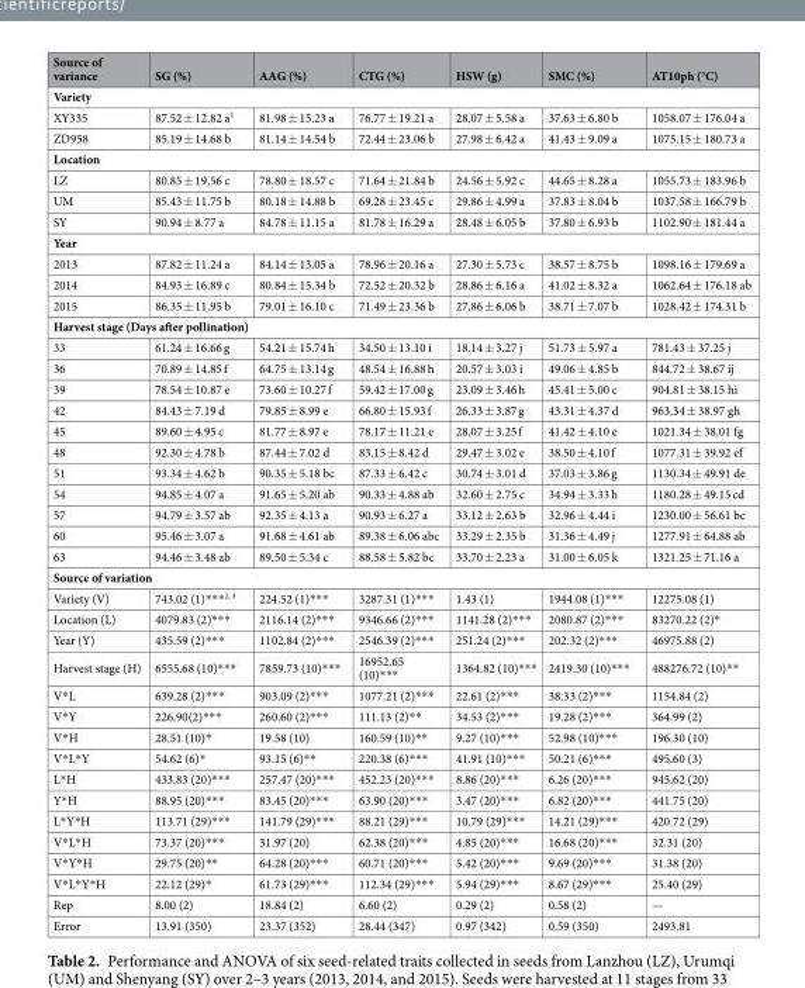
<table><thead><tr><td>Source of variance</td><td>SG (%)</td><td>AAG (%)</td><td>CTG (%)</td><td>HSW (g)</td><td>SMC (%)</td><td>AT10ph (°C)</td></tr></thead><tbody><tr><td colspan="7">Variety</td></tr><tr><td>XY335</td><td>87.52 ± 12.82 a<sup>1</sup></td><td>81.98 ± 15.23 a</td><td>76.77 ± 19.21 a</td><td>28.07 ± 5.58 a</td><td>37.63 ± 6.80 b</td><td>1058.07 ± 176.04 a</td></tr><tr><td>ZD958</td><td>85.19 ± 14.68 b</td><td>81.14 ± 14.54 b</td><td>72.44 ± 23.06 b</td><td>27.98 ± 6.42 a</td><td>41.43 ± 9.09 a</td><td>1075.15 ± 180.73 a</td></tr><tr><td colspan="7">Location</td></tr><tr><td>LZ</td><td>80.85 ± 19.56 c</td><td>78.80 ± 18.57 c</td><td>71.64 ± 21.84 b</td><td>24.56 ± 5.92 c</td><td>44.65 ± 8.28 a</td><td>1055.73 ± 183.96 b</td></tr><tr><td>UM</td><td>85.43 ± 11.75 b</td><td>80.18 ± 14.88 b</td><td>69.28 ± 23.45 c</td><td>29.86 ± 4.99 a</td><td>37.83 ± 8.04 b</td><td>1037.58 ± 166.79 b</td></tr><tr><td>SY</td><td>90.94 ± 8.77 a</td><td>84.78 ± 11.15 a</td><td>81.78 ± 16.29 a</td><td>28.48 ± 6.05 b</td><td>37.80 ± 6.93 b</td><td>1102.90 ± 181.44 a</td></tr><tr><td colspan="7">Year</td></tr><tr><td>2013</td><td>87.82 ± 11.24 a</td><td>84.14 ± 13.05 a</td><td>78.96 ± 20.16 a</td><td>27.30 ± 5.73 c</td><td>38.57 ± 8.75 b</td><td>1098.16 ± 179.69 a</td></tr><tr><td>2014</td><td>84.93 ± 16.89 c</td><td>80.84 ± 15.34 b</td><td>72.52 ± 20.32 b</td><td>28.86 ± 6.16 a</td><td>41.02 ± 8.32 a</td><td>1062.64 ± 176.18 ab</td></tr><tr><td>2015</td><td>86.35 ± 11.95 b</td><td>79.01 ± 16.10 c</td><td>71.49 ± 23.36 b</td><td>27.86 ± 6.06 b</td><td>38.71 ± 7.07 b</td><td>1028.42 ± 174.31 b</td></tr><tr><td colspan="7">Harvest stage (Days after pollination)</td></tr><tr><td>33</td><td>61.24 ± 16.66 g</td><td>54.21 ± 15.74 h</td><td>34.50 ± 13.10 i</td><td>18.14 ± 3.27 j</td><td>51.73 ± 5.97 a</td><td>781.43 ± 37.25 j</td></tr><tr><td>36</td><td>70.89 ± 14.85 f</td><td>64.75 ± 13.14 g</td><td>48.54 ± 16.88 h</td><td>20.57 ± 3.03 i</td><td>49.06 ± 4.85 b</td><td>844.72 ± 38.67 ij</td></tr><tr><td>39</td><td>78.54 ± 10.87 e</td><td>73.60 ± 10.27 f</td><td>59.42 ± 17.00 g</td><td>23.09 ± 3.46 h</td><td>45.41 ± 5.00 c</td><td>904.81 ± 38.15 hi</td></tr><tr><td>42</td><td>84.43 ± 7.19 d</td><td>79.85 ± 8.99 e</td><td>66.80 ± 15.93 f</td><td>26.33 ± 3.87 g</td><td>43.31 ± 4.37 d</td><td>963.34 ± 38.97 gh</td></tr><tr><td>45</td><td>89.60 ± 4.95 c</td><td>81.77 ± 8.97 e</td><td>78.17 ± 11.21 e</td><td>28.07 ± 3.25 f</td><td>41.42 ± 4.10 e</td><td>1021.34 ± 38.01 fg</td></tr><tr><td>48</td><td>92.30 ± 4.78 b</td><td>87.44 ± 7.02 d</td><td>83.15 ± 8.42 d</td><td>29.47 ± 3.02 e</td><td>38.50 ± 4.10 f</td><td>1077.31 ± 39.92 ef</td></tr><tr><td>51</td><td>93.34 ± 4.62 b</td><td>90.35 ± 5.18 bc</td><td>87.33 ± 6.42 c</td><td>30.74 ± 3.01 d</td><td>37.03 ± 3.86 g</td><td>1130.34 ± 49.91 de</td></tr><tr><td>54</td><td>94.85 ± 4.07 a</td><td>91.65 ± 5.20 ab</td><td>90.33 ± 4.88 ab</td><td>32.60 ± 2.75 c</td><td>34.94 ± 3.33 h</td><td>1180.28 ± 49.15 cd</td></tr><tr><td>57</td><td>94.79 ± 3.57 ab</td><td>92.35 ± 4.13 a</td><td>90.93 ± 6.27 a</td><td>33.12 ± 2.63 b</td><td>32.96 ± 4.44 i</td><td>1230.00 ± 56.61 bc</td></tr><tr><td>60</td><td>95.46 ± 3.07 a</td><td>91.68 ± 4.61 ab</td><td>89.38 ± 6.06 abc</td><td>33.29 ± 2.35 b</td><td>31.36 ± 4.49 j</td><td>1277.91 ± 64.88 ab</td></tr><tr><td>63</td><td>94.46 ± 3.48 ab</td><td>89.50 ± 5.34 c</td><td>88.58 ± 5.82 bc</td><td>33.70 ± 2.23 a</td><td>31.00 ± 6.05 k</td><td>1321.25 ± 71.16 a</td></tr><tr><td colspan="7">Source of variation</td></tr><tr><td>Variety (V)</td><td>743.02 (1)***<sup>2, 3</sup></td><td>224.52 (1)***</td><td>3287.31 (1)***</td><td>1.43 (1)</td><td>1944.08 (1)***</td><td>12275.08 (1)</td></tr><tr><td>Location (L)</td><td>4079.83 (2)***</td><td>2116.14 (2)***</td><td>9346.66 (2)***</td><td>1141.28 (2)***</td><td>2080.87 (2)***</td><td>83270.22 (2)*</td></tr><tr><td>Year (Y)</td><td>435.59 (2)***</td><td>1102.84 (2)***</td><td>2546.39 (2)***</td><td>251.24 (2)***</td><td>202.32 (2)***</td><td>46975.88 (2)</td></tr><tr><td>Harvest stage (H)</td><td>6555.68 (10)***</td><td>7859.73 (10)***</td><td>16952.65 (10)***</td><td>1364.82 (10)***</td><td>2419.30 (10)***</td><td>488276.72 (10)**</td></tr><tr><td>V*L</td><td>639.28 (2)***</td><td>903.09 (2)***</td><td>1077.21 (2)***</td><td>22.61 (2)***</td><td>38.33 (2)***</td><td>1154.84 (2)</td></tr><tr><td>V*Y</td><td>226.90(2)***</td><td>260.60 (2)***</td><td>111.13 (2)**</td><td>34.53 (2)***</td><td>19.28 (2)***</td><td>364.99 (2)</td></tr><tr><td>V*H</td><td>28.51 (10)*</td><td>19.58 (10)</td><td>160.59 (10)**</td><td>9.27 (10)***</td><td>52.98 (10)***</td><td>196.30 (10)</td></tr><tr><td>V*L*Y</td><td>54.62 (6)*</td><td>93.15 (6)**</td><td>220.38 (6)***</td><td>41.91 (10)***</td><td>50.21 (6)***</td><td>495.60 (3)</td></tr><tr><td>L*H</td><td>433.83 (20)***</td><td>257.47 (20)***</td><td>452.23 (20)***</td><td>8.86 (20)***</td><td>6.26 (20)***</td><td>945.62 (20)</td></tr><tr><td>Y*H</td><td>88.95 (20)***</td><td>83.45 (20)***</td><td>63.90 (20)***</td><td>3.47 (20)***</td><td>6.82 (20)***</td><td>441.75 (20)</td></tr><tr><td>L*Y*H</td><td>113.71 (29)***</td><td>141.79 (29)***</td><td>88.21 (29)***</td><td>10.79 (29)***</td><td>14.21 (29)***</td><td>420.72 (29)</td></tr><tr><td>V*L*H</td><td>73.37 (20)***</td><td>31.97 (20)</td><td>62.38 (20)***</td><td>4.85 (20)***</td><td>16.68 (20)***</td><td>32.31 (20)</td></tr><tr><td>V*Y*H</td><td>29.75 (20)**</td><td>64.28 (20)***</td><td>60.71 (20)***</td><td>5.42 (20)***</td><td>9.69 (20)***</td><td>31.38 (20)</td></tr><tr><td>V*L*Y*H</td><td>22.12 (29)*</td><td>61.73 (29)***</td><td>112.34 (29)***</td><td>5.94 (29)***</td><td>8.67 (29)***</td><td>25.40 (29)</td></tr><tr><td>Rep</td><td>8.00 (2)</td><td>18.84 (2)</td><td>6.60 (2)</td><td>0.29 (2)</td><td>0.58 (2)</td><td>—</td></tr><tr><td>Error</td><td>13.91 (350)</td><td>23.37 (352)</td><td>28.44 (347)</td><td>0.97 (342)</td><td>0.59 (350)</td><td>2493.81</td></tr></tbody></table>